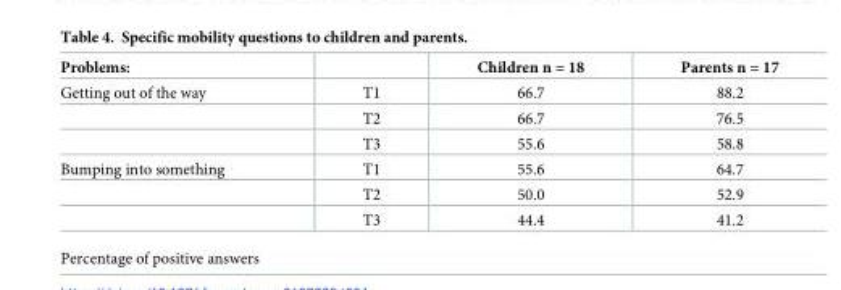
<table><thead><tr><td>Problems:</td><td></td><td>Children n = 18</td><td>Parents n = 17</td></tr></thead><tbody><tr><td rowspan="3">Getting out of the way</td><td>T1</td><td>66.7</td><td>88.2</td></tr><tr><td>T2</td><td>66.7</td><td>76.5</td></tr><tr><td>T3</td><td>55.6</td><td>58.8</td></tr><tr><td rowspan="3">Bumping into something</td><td>T1</td><td>55.6</td><td>64.7</td></tr><tr><td>T2</td><td>50.0</td><td>52.9</td></tr><tr><td>T3</td><td>44.4</td><td>41.2</td></tr></tbody></table>